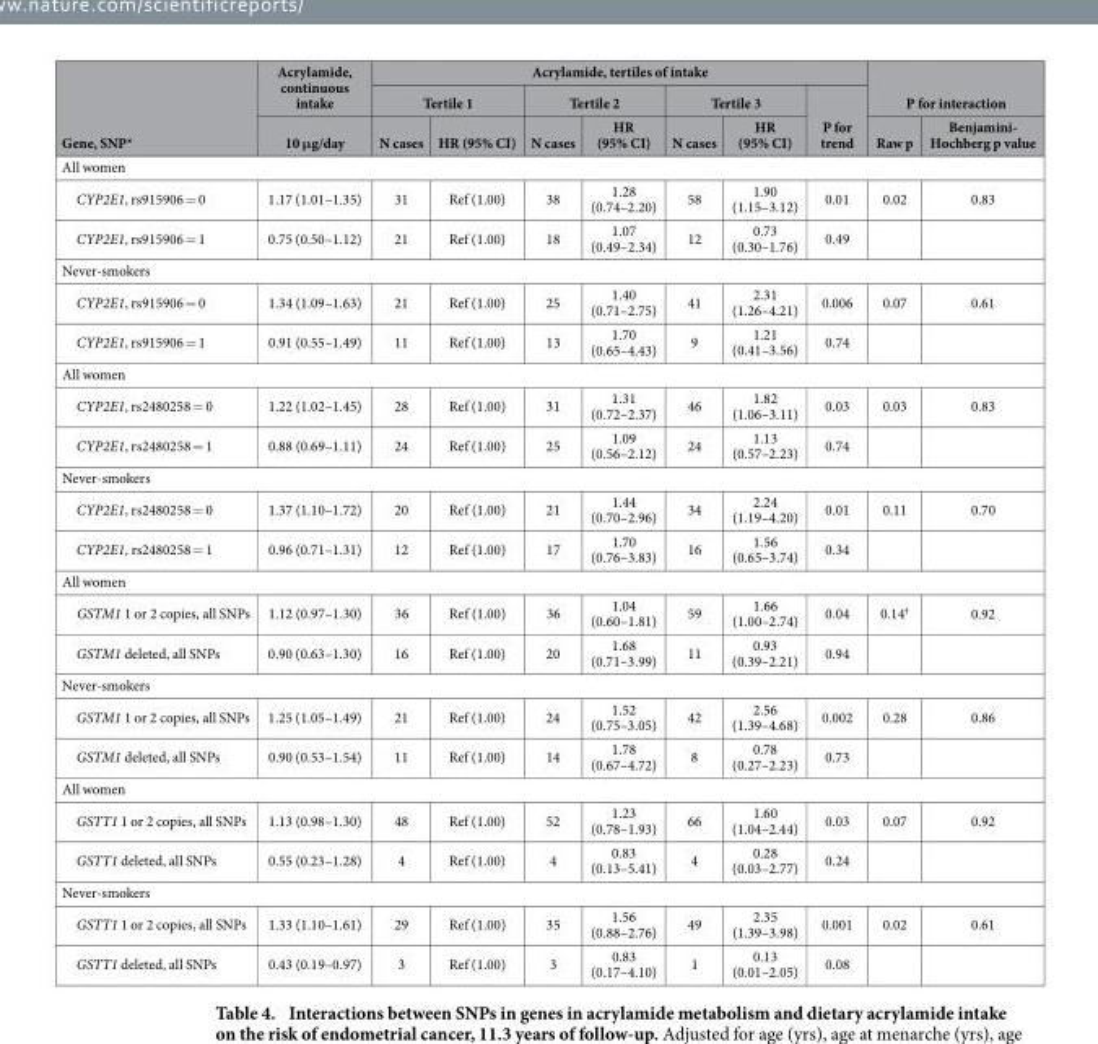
<table><thead><tr><td rowspan="3">Gene, SNP*</td><td rowspan="3">Acrylamide, continuous intake 10 μg/day</td><td colspan="7">Acrylamide, tertiles of intake</td><td rowspan="2" colspan="2">P for interaction</td></tr><tr><td colspan="2">Tertile 1</td><td colspan="2">Tertile 2</td><td colspan="2">Tertile 3</td><td rowspan="2">P for trend</td></tr><tr><td>N cases</td><td>HR (95% CI)</td><td>N cases</td><td>HR (95% CI)</td><td>N cases</td><td>HR (95% CI)</td><td>Raw p</td><td>Benjamini- Hochberg p value</td></tr></thead><tbody><tr><td colspan="11">All women</td></tr><tr><td>CYP2E1, rs915906 = 0</td><td>1.17 (1.01–1.35)</td><td>31</td><td>Ref (1.00)</td><td>38</td><td>1.28 (0.74–2.20)</td><td>58</td><td>1.90 (1.15–3.12)</td><td>0.01</td><td>0.02</td><td>0.83</td></tr><tr><td>CYP2E1, rs915906 = 1</td><td>0.75 (0.50–1.12)</td><td>21</td><td>Ref (1.00)</td><td>18</td><td>1.07 (0.49–2.34)</td><td>12</td><td>0.73 (0.30–1.76)</td><td>0.49</td><td></td><td></td></tr><tr><td colspan="11">Never-smokers</td></tr><tr><td>CYP2E1, rs915906 = 0</td><td>1.34 (1.09–1.63)</td><td>21</td><td>Ref (1.00)</td><td>25</td><td>1.40 (0.71–2.75)</td><td>41</td><td>2.31 (1.26–4.21)</td><td>0.006</td><td>0.07</td><td>0.61</td></tr><tr><td>CYP2E1, rs915906 = 1</td><td>0.91 (0.55–1.49)</td><td>11</td><td>Ref (1.00)</td><td>13</td><td>1.70 (0.65–4.43)</td><td>9</td><td>1.21 (0.41–3.56)</td><td>0.74</td><td></td><td></td></tr><tr><td colspan="11">All women</td></tr><tr><td>CYP2E1, rs2480258 = 0</td><td>1.22 (1.02–1.45)</td><td>28</td><td>Ref (1.00)</td><td>31</td><td>1.31 (0.72–2.37)</td><td>46</td><td>1.82 (1.06–3.11)</td><td>0.03</td><td>0.03</td><td>0.83</td></tr><tr><td>CYP2E1, rs2480258 = 1</td><td>0.88 (0.69–1.11)</td><td>24</td><td>Ref (1.00)</td><td>25</td><td>1.09 (0.56–2.12)</td><td>24</td><td>1.13 (0.57–2.23)</td><td>0.74</td><td></td><td></td></tr><tr><td colspan="11">Never-smokers</td></tr><tr><td>CYP2E1, rs2480258 = 0</td><td>1.37 (1.10–1.72)</td><td>20</td><td>Ref (1.00)</td><td>21</td><td>1.44 (0.70–2.96)</td><td>34</td><td>2.24 (1.19–4.20)</td><td>0.01</td><td>0.11</td><td>0.70</td></tr><tr><td>CYP2E1, rs2480258 = 1</td><td>0.96 (0.71–1.31)</td><td>12</td><td>Ref (1.00)</td><td>17</td><td>1.70 (0.76–3.83)</td><td>16</td><td>1.56 (0.65–3.74)</td><td>0.34</td><td></td><td></td></tr><tr><td colspan="11">All women</td></tr><tr><td>GSTM1 1 or 2 copies, all SNPs</td><td>1.12 (0.97–1.30)</td><td>36</td><td>Ref (1.00)</td><td>36</td><td>1.04 (0.60–1.81)</td><td>59</td><td>1.66 (1.00–2.74)</td><td>0.04</td><td>0.14†</td><td>0.92</td></tr><tr><td>GSTM1 deleted, all SNPs</td><td>0.90 (0.63–1.30)</td><td>16</td><td>Ref (1.00)</td><td>20</td><td>1.68 (0.71–3.99)</td><td>11</td><td>0.93 (0.39–2.21)</td><td>0.94</td><td></td><td></td></tr><tr><td colspan="11">Never-smokers</td></tr><tr><td>GSTM1 1 or 2 copies, all SNPs</td><td>1.25 (1.05–1.49)</td><td>21</td><td>Ref (1.00)</td><td>24</td><td>1.52 (0.75–3.05)</td><td>42</td><td>2.56 (1.39–4.68)</td><td>0.002</td><td>0.28</td><td>0.86</td></tr><tr><td>GSTM1 deleted, all SNPs</td><td>0.90 (0.53–1.54)</td><td>11</td><td>Ref (1.00)</td><td>14</td><td>1.78 (0.67–4.72)</td><td>8</td><td>0.78 (0.27–2.23)</td><td>0.73</td><td></td><td></td></tr><tr><td colspan="11">All women</td></tr><tr><td>GSTT1 1 or 2 copies, all SNPs</td><td>1.13 (0.98–1.30)</td><td>48</td><td>Ref (1.00)</td><td>52</td><td>1.23 (0.78–1.93)</td><td>66</td><td>1.60 (1.04–2.44)</td><td>0.03</td><td>0.07</td><td>0.92</td></tr><tr><td>GSTT1 deleted, all SNPs</td><td>0.55 (0.23–1.28)</td><td>4</td><td>Ref (1.00)</td><td>4</td><td>0.83 (0.13–5.41)</td><td>4</td><td>0.28 (0.03–2.77)</td><td>0.24</td><td></td><td></td></tr><tr><td colspan="11">Never-smokers</td></tr><tr><td>GSTT1 1 or 2 copies, all SNPs</td><td>1.33 (1.10–1.61)</td><td>29</td><td>Ref (1.00)</td><td>35</td><td>1.56 (0.88–2.76)</td><td>49</td><td>2.35 (1.39–3.98)</td><td>0.001</td><td>0.02</td><td>0.61</td></tr><tr><td>GSTT1 deleted, all SNPs</td><td>0.43 (0.19–0.97)</td><td>3</td><td>Ref (1.00)</td><td>3</td><td>0.83 (0.17–4.10)</td><td>1</td><td>0.13 (0.01–2.05)</td><td>0.08</td><td></td><td></td></tr></tbody></table>